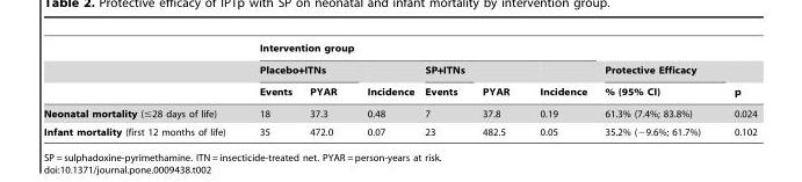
<table><thead><tr><td rowspan="3"></td><td colspan="6">Intervention group</td><td rowspan="3">Protective Efficacy % (95% CI)</td><td rowspan="3">p</td></tr><tr><td colspan="2">Placebo+ITNs</td><td rowspan="2">Incidence</td><td rowspan="2">SP+ITNs Events</td><td rowspan="2">PYAR</td><td rowspan="2">Incidence</td></tr><tr><td>Events</td><td>PYAR</td></tr></thead><tbody><tr><td>Neonatal mortality (≤28 days of life)</td><td>18</td><td>37.3</td><td>0.48</td><td>7</td><td>37.8</td><td>0.19</td><td>61.3% (7.4%; 83.8%)</td><td>0.024</td></tr><tr><td>Infant mortality (first 12 months of life)</td><td>35</td><td>472.0</td><td>0.07</td><td>23</td><td>482.5</td><td>0.05</td><td>35.2% (−9.6%; 61.7%)</td><td>0.102</td></tr></tbody></table>